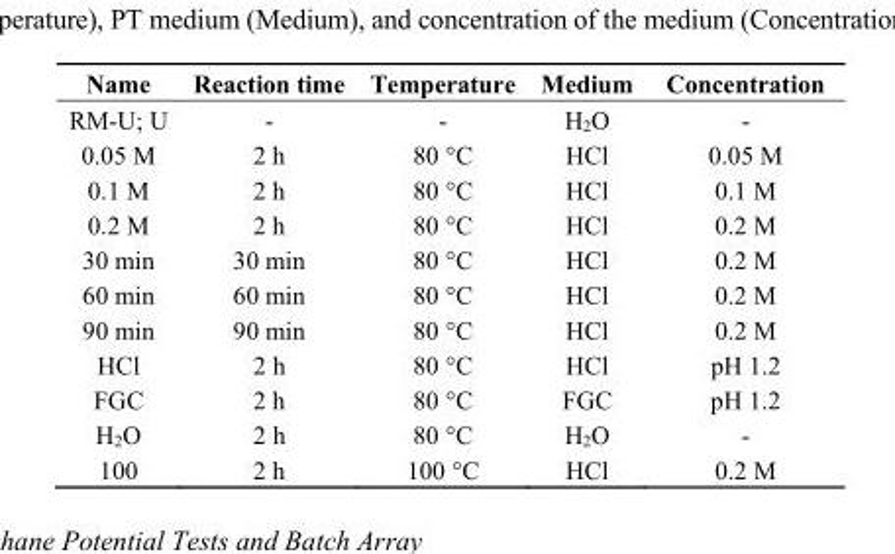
<table><thead><tr><td>Name</td><td>Reaction time</td><td>Temperature</td><td>Medium</td><td>Concentration</td></tr></thead><tbody><tr><td>RM-U; U</td><td>-</td><td>-</td><td>H<sub>2</sub>O</td><td>-</td></tr><tr><td>0.05 M</td><td>2 h</td><td>80 °C</td><td>HCl</td><td>0.05 M</td></tr><tr><td>0.1 M</td><td>2 h</td><td>80 °C</td><td>HCl</td><td>0.1 M</td></tr><tr><td>0.2 M</td><td>2 h</td><td>80 °C</td><td>HCl</td><td>0.2 M</td></tr><tr><td>30 min</td><td>30 min</td><td>80 °C</td><td>HCl</td><td>0.2 M</td></tr><tr><td>60 min</td><td>60 min</td><td>80 °C</td><td>HCl</td><td>0.2 M</td></tr><tr><td>90 min</td><td>90 min</td><td>80 °C</td><td>HCl</td><td>0.2 M</td></tr><tr><td>HCl</td><td>2 h</td><td>80 °C</td><td>HCl</td><td>pH 1.2</td></tr><tr><td>FGC</td><td>2 h</td><td>80 °C</td><td>FGC</td><td>pH 1.2</td></tr><tr><td>H<sub>2</sub>O</td><td>2 h</td><td>80 °C</td><td>H<sub>2</sub>O</td><td>-</td></tr><tr><td>100</td><td>2 h</td><td>100 °C</td><td>HCl</td><td>0.2 M</td></tr></tbody></table>